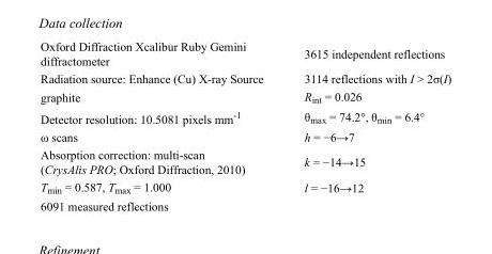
<table><tbody><tr><td>Oxford Diffraction Xcalibur Ruby Gemini diffractometer</td><td>3615 independent reflections</td></tr><tr><td>Radiation source: Enhance (Cu) X-ray Source</td><td>3114 reflections with I &gt; 2σ(I)</td></tr><tr><td>graphite</td><td>R<sub>int</sub> = 0.026</td></tr><tr><td>Detector resolution: 10.5081 pixels mm<sup>-1</sup></td><td>θ<sub>max</sub> = 74.2°, θ<sub>min</sub> = 6.4°</td></tr><tr><td>ω scans</td><td>h = −6→7</td></tr><tr><td>Absorption correction: multi-scan (CrysAlis PRO; Oxford Diffraction, 2010)</td><td>k = −14→15</td></tr><tr><td>T<sub>min</sub> = 0.587, T<sub>max</sub> = 1.000</td><td>l = −16→12</td></tr><tr><td>6091 measured reflections</td><td></td></tr></tbody></table>